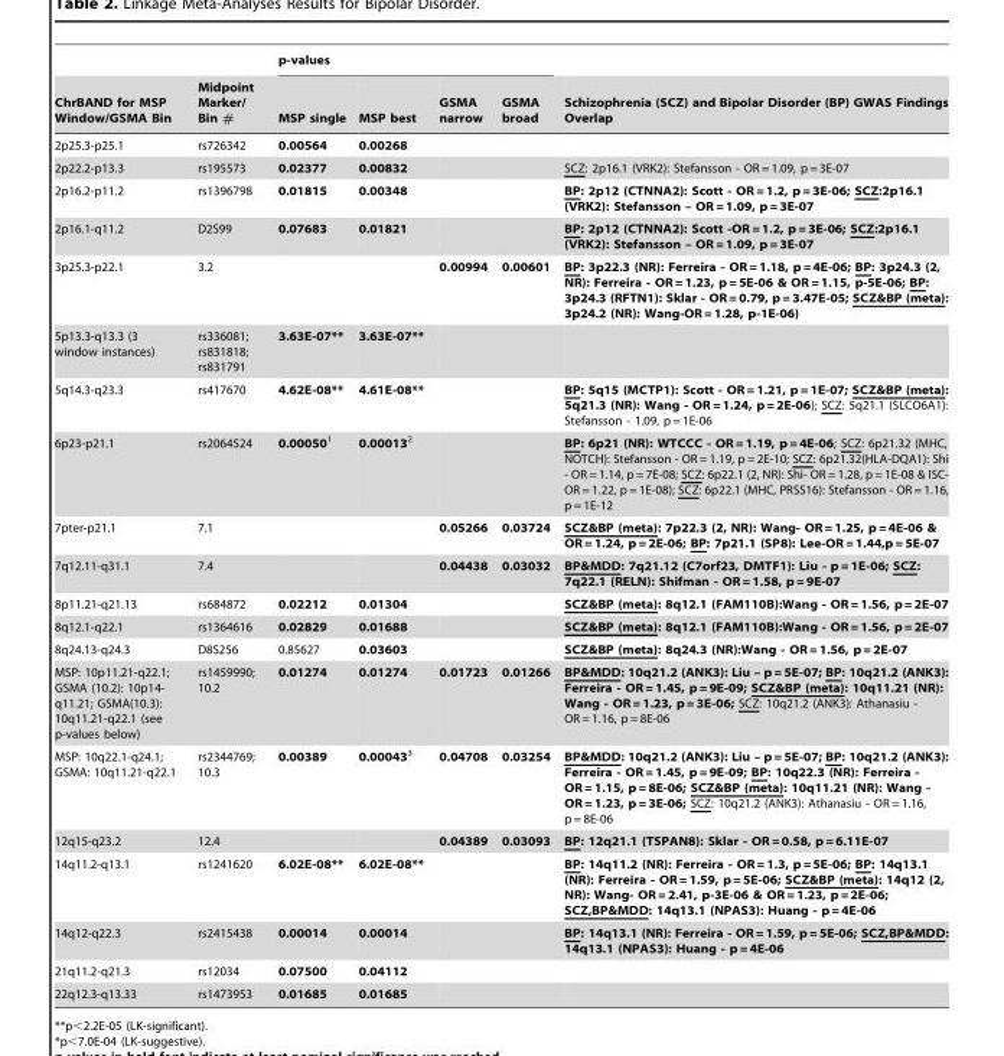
<table><thead><tr><td rowspan="2">ChrBAND for MSP Window/GSMA Bin</td><td rowspan="2">Midpoint Marker/ Bin #</td><td colspan="4">p-values</td><td rowspan="2">Schizophrenia (SCZ) and Bipolar Disorder (BP) GWAS Findings Overlap</td></tr><tr><td>MSP single</td><td>MSP best</td><td>GSMA narrow</td><td>GSMA broad</td></tr></thead><tbody><tr><td>2p25.3-p25.1</td><td>rs726342</td><td>0.00564</td><td>0.00268</td><td></td><td></td><td></td></tr><tr><td>2p22.2-p13.3</td><td>rs195573</td><td>0.02377</td><td>0.00832</td><td></td><td></td><td>SCZ: 2p16.1 (VRK2): Stefansson - OR = 1.09, p = 3E-07</td></tr><tr><td>2p16.2-p11.2</td><td>rs1396798</td><td>0.01815</td><td>0.00348</td><td></td><td></td><td>BP: 2p12 (CTNNA2): Scott - OR = 1.2, p = 3E-06; SCZ:2p16.1 (VRK2): Stefansson – OR = 1.09, p = 3E-07</td></tr><tr><td>2p16.1-q11.2</td><td>D2S99</td><td>0.07683</td><td>0.01821</td><td></td><td></td><td>BP: 2p12 (CTNNA2): Scott -OR = 1.2, p = 3E-06; SCZ:2p16.1 (VRK2): Stefansson – OR = 1.09, p = 3E-07</td></tr><tr><td>3p25.3-p22.1</td><td>3.2</td><td></td><td></td><td>0.00994</td><td>0.00601</td><td>BP: 3p22.3 (NR): Ferreira - OR = 1.18, p = 4E-06; BP: 3p24.3 (2, NR): Ferreira - OR = 1.23, p = 5E-06 &amp; OR = 1.15, p-5E-06; BP: 3p24.3 (RFTN1): Sklar - OR = 0.79, p = 3.47E-05; SCZ&amp;BP (meta): 3p24.2 (NR): Wang-OR = 1.28, p-1E-06)</td></tr><tr><td>5p13.3-q13.3 (3 window instances)</td><td>rs336081; rs831818; rs831791</td><td>3.63E-07**</td><td>3.63E-07**</td><td></td><td></td><td></td></tr><tr><td>5q14.3-q23.3</td><td>rs417670</td><td>4.62E-08**</td><td>4.61E-08**</td><td></td><td></td><td>BP: 5q15 (MCTP1): Scott - OR = 1.21, p = 1E-07; SCZ&amp;BP (meta): 5q21.3 (NR): Wang - OR = 1.24, p = 2E-06); SCZ: 5q21.1 (SLCO6A1): Stefansson - 1.09, p = 1E-06</td></tr><tr><td>6p23-p21.1</td><td>rs2064524</td><td>0.000501</td><td>0.000132</td><td></td><td></td><td>BP: 6p21 (NR): WTCCC - OR = 1.19, p = 4E-06; SCZ: 6p21.32 (MHC, NOTCH): Stefansson - OR = 1.19, p = 2E-10; SCZ: 6p21.32(HLA-DQA1): Shi - OR = 1.14, p = 7E-08; SCZ: 6p22.1 (2, NR): Shi- OR = 1.28, p = 1E-08 &amp; ISC- OR = 1.22, p = 1E-08); SCZ: 6p22.1 (MHC, PRSS16): Stefansson - OR = 1.16, p = 1E-12</td></tr><tr><td>7pter-p21.1</td><td>7.1</td><td></td><td></td><td>0.05266</td><td>0.03724</td><td>SCZ&amp;BP (meta): 7p22.3 (2, NR): Wang- OR = 1.25, p = 4E-06 &amp; OR = 1.24, p = 2E-06; BP: 7p21.1 (SP8): Lee-OR = 1.44,p = 5E-07</td></tr><tr><td>7q12.11-q31.1</td><td>7.4</td><td></td><td></td><td>0.04438</td><td>0.03032</td><td>BP&amp;MDD: 7q21.12 (C7orf23, DMTF1): Liu - p = 1E-06; SCZ: 7q22.1 (RELN): Shifman - OR = 1.58, p = 9E-07</td></tr><tr><td>8p11.21-q21.13</td><td>rs684872</td><td>0.02212</td><td>0.01304</td><td></td><td></td><td>SCZ&amp;BP (meta): 8q12.1 (FAM110B):Wang - OR = 1.56, p = 2E-07</td></tr><tr><td>8q12.1-q22.1</td><td>rs1364616</td><td>0.02829</td><td>0.01688</td><td></td><td></td><td>SCZ&amp;BP (meta): 8q12.1 (FAM110B):Wang - OR = 1.56, p = 2E-07</td></tr><tr><td>8q24.13-q24.3</td><td>D8S256</td><td>0.85627</td><td>0.03603</td><td></td><td></td><td>SCZ&amp;BP (meta): 8q24.3 (NR):Wang - OR = 1.56, p = 2E-07</td></tr><tr><td>MSP: 10p11.21-q22.1; GSMA (10.2): 10p14- q11.21; GSMA(10.3): 10q11.21-q22.1 (see p-values below)</td><td>rs1459990; 10.2</td><td>0.01274</td><td>0.01274</td><td>0.01723</td><td>0.01266</td><td>BP&amp;MDD: 10q21.2 (ANK3): Liu – p = 5E-07; BP: 10q21.2 (ANK3): Ferreira - OR = 1.45, p = 9E-09; SCZ&amp;BP (meta): 10q11.21 (NR): Wang - OR = 1.23, p = 3E-06; SCZ: 10q21.2 (ANK3): Athanasiu - OR = 1.16, p = 8E-06</td></tr><tr><td>MSP: 10q22.1-q24.1; GSMA: 10q11.21-q22.1</td><td>rs2344769; 10.3</td><td>0.00389</td><td>0.000433</td><td>0.04708</td><td>0.03254</td><td>BP&amp;MDD: 10q21.2 (ANK3): Liu – p = 5E-07; BP: 10q21.2 (ANK3): Ferreira - OR = 1.45, p = 9E-09; BP: 10q22.3 (NR): Ferreira - OR = 1.15, p = 8E-06; SCZ&amp;BP (meta): 10q11.21 (NR): Wang - OR = 1.23, p = 3E-06; SCZ: 10q21.2 (ANK3): Athanasiu - OR = 1.16, p = 8E-06</td></tr><tr><td>12q15-q23.2</td><td>12.4</td><td></td><td></td><td>0.04389</td><td>0.03093</td><td>BP: 12q21.1 (TSPAN8): Sklar - OR = 0.58, p = 6.11E-07</td></tr><tr><td>14q11.2-q13.1</td><td>rs1241620</td><td>6.02E-08**</td><td>6.02E-08**</td><td></td><td></td><td>BP: 14q11.2 (NR): Ferreira - OR = 1.3, p = 5E-06; BP: 14q13.1 (NR): Ferreira - OR = 1.59, p = 5E-06; SCZ&amp;BP (meta): 14q12 (2, NR): Wang- OR = 2.41, p-3E-06 &amp; OR = 1.23, p = 2E-06; SCZ,BP&amp;MDD: 14q13.1 (NPAS3): Huang - p = 4E-06</td></tr><tr><td>14q12-q22.3</td><td>rs2415438</td><td>0.00014</td><td>0.00014</td><td></td><td></td><td>BP: 14q13.1 (NR): Ferreira - OR = 1.59, p = 5E-06; SCZ,BP&amp;MDD: 14q13.1 (NPAS3): Huang - p = 4E-06</td></tr><tr><td>21q11.2-q21.3</td><td>rs12034</td><td>0.07500</td><td>0.04112</td><td></td><td></td><td></td></tr><tr><td>22q12.3-q13.33</td><td>rs1473953</td><td>0.01685</td><td>0.01685</td><td></td><td></td><td></td></tr></tbody></table>